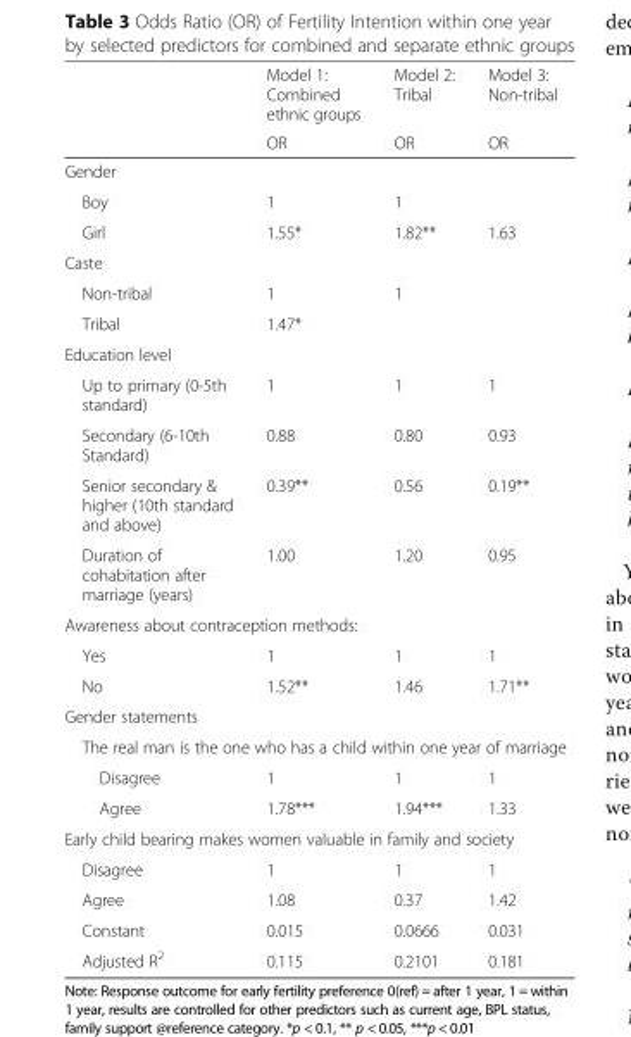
<table><thead><tr><td rowspan="2"></td><td rowspan="2">Model 1: Combined ethnic groups OR</td><td rowspan="2">Model 2: Tribal OR</td><td rowspan="2">Model 3: Non-tribal OR</td></tr><tr></tr></thead><tbody><tr><td colspan="4">Gender</td></tr><tr><td>Boy</td><td>1</td><td>1</td><td></td></tr><tr><td>Girl</td><td>1.55*</td><td>1.82**</td><td>1.63</td></tr><tr><td colspan="4">Caste</td></tr><tr><td>Non-tribal</td><td>1</td><td>1</td><td></td></tr><tr><td>Tribal</td><td>1.47*</td><td></td><td></td></tr><tr><td colspan="4">Education level</td></tr><tr><td>Up to primary (0-5th standard)</td><td>1</td><td>1</td><td>1</td></tr><tr><td>Secondary (6-10th Standard)</td><td>0.88</td><td>0.80</td><td>0.93</td></tr><tr><td>Senior secondary &amp; higher (10th standard and above)</td><td>0.39**</td><td>0.56</td><td>0.19**</td></tr><tr><td>Duration of cohabitation after marriage (years)</td><td>1.00</td><td>1.20</td><td>0.95</td></tr><tr><td colspan="4">Awareness about contraception methods:</td></tr><tr><td>Yes</td><td>1</td><td>1</td><td>1</td></tr><tr><td>No</td><td>1.52**</td><td>1.46</td><td>1.71**</td></tr><tr><td colspan="4">Gender statements</td></tr><tr><td colspan="4">The real man is the one who has a child within one year of marriage</td></tr><tr><td>Disagree</td><td>1</td><td>1</td><td>1</td></tr><tr><td>Agree</td><td>1.78***</td><td>1.94***</td><td>1.33</td></tr><tr><td colspan="4">Early child bearing makes women valuable in family and society</td></tr><tr><td>Disagree</td><td>1</td><td>1</td><td>1</td></tr><tr><td>Agree</td><td>1.08</td><td>0.37</td><td>1.42</td></tr><tr><td>Constant</td><td>0.015</td><td>0.0666</td><td>0.031</td></tr><tr><td>Adjusted R<sup>2</sup></td><td>0.115</td><td>0.2101</td><td>0.181</td></tr></tbody></table>